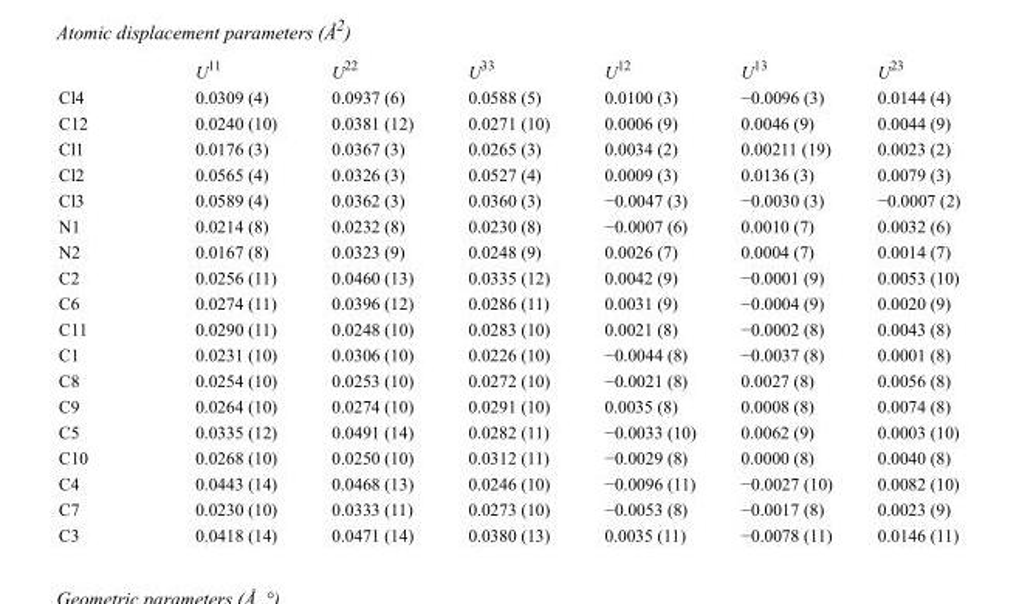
<table><thead><tr><td></td><td>U<sup>11</sup></td><td>U<sup>22</sup></td><td>U<sup>33</sup></td><td>U<sup>12</sup></td><td>U<sup>13</sup></td><td>U<sup>23</sup></td></tr></thead><tbody><tr><td>Cl4</td><td>0.0309 (4)</td><td>0.0937 (6)</td><td>0.0588 (5)</td><td>0.0100 (3)</td><td>−0.0096 (3)</td><td>0.0144 (4)</td></tr><tr><td>C12</td><td>0.0240 (10)</td><td>0.0381 (12)</td><td>0.0271 (10)</td><td>0.0006 (9)</td><td>0.0046 (9)</td><td>0.0044 (9)</td></tr><tr><td>Cl1</td><td>0.0176 (3)</td><td>0.0367 (3)</td><td>0.0265 (3)</td><td>0.0034 (2)</td><td>0.00211 (19)</td><td>0.0023 (2)</td></tr><tr><td>Cl2</td><td>0.0565 (4)</td><td>0.0326 (3)</td><td>0.0527 (4)</td><td>0.0009 (3)</td><td>0.0136 (3)</td><td>0.0079 (3)</td></tr><tr><td>Cl3</td><td>0.0589 (4)</td><td>0.0362 (3)</td><td>0.0360 (3)</td><td>−0.0047 (3)</td><td>−0.0030 (3)</td><td>−0.0007 (2)</td></tr><tr><td>N1</td><td>0.0214 (8)</td><td>0.0232 (8)</td><td>0.0230 (8)</td><td>−0.0007 (6)</td><td>0.0010 (7)</td><td>0.0032 (6)</td></tr><tr><td>N2</td><td>0.0167 (8)</td><td>0.0323 (9)</td><td>0.0248 (9)</td><td>0.0026 (7)</td><td>0.0004 (7)</td><td>0.0014 (7)</td></tr><tr><td>C2</td><td>0.0256 (11)</td><td>0.0460 (13)</td><td>0.0335 (12)</td><td>0.0042 (9)</td><td>−0.0001 (9)</td><td>0.0053 (10)</td></tr><tr><td>C6</td><td>0.0274 (11)</td><td>0.0396 (12)</td><td>0.0286 (11)</td><td>0.0031 (9)</td><td>−0.0004 (9)</td><td>0.0020 (9)</td></tr><tr><td>C11</td><td>0.0290 (11)</td><td>0.0248 (10)</td><td>0.0283 (10)</td><td>0.0021 (8)</td><td>−0.0002 (8)</td><td>0.0043 (8)</td></tr><tr><td>C1</td><td>0.0231 (10)</td><td>0.0306 (10)</td><td>0.0226 (10)</td><td>−0.0044 (8)</td><td>−0.0037 (8)</td><td>0.0001 (8)</td></tr><tr><td>C8</td><td>0.0254 (10)</td><td>0.0253 (10)</td><td>0.0272 (10)</td><td>−0.0021 (8)</td><td>0.0027 (8)</td><td>0.0056 (8)</td></tr><tr><td>C9</td><td>0.0264 (10)</td><td>0.0274 (10)</td><td>0.0291 (10)</td><td>0.0035 (8)</td><td>0.0008 (8)</td><td>0.0074 (8)</td></tr><tr><td>C5</td><td>0.0335 (12)</td><td>0.0491 (14)</td><td>0.0282 (11)</td><td>−0.0033 (10)</td><td>0.0062 (9)</td><td>0.0003 (10)</td></tr><tr><td>C10</td><td>0.0268 (10)</td><td>0.0250 (10)</td><td>0.0312 (11)</td><td>−0.0029 (8)</td><td>0.0000 (8)</td><td>0.0040 (8)</td></tr><tr><td>C4</td><td>0.0443 (14)</td><td>0.0468 (13)</td><td>0.0246 (10)</td><td>−0.0096 (11)</td><td>−0.0027 (10)</td><td>0.0082 (10)</td></tr><tr><td>C7</td><td>0.0230 (10)</td><td>0.0333 (11)</td><td>0.0273 (10)</td><td>−0.0053 (8)</td><td>−0.0017 (8)</td><td>0.0023 (9)</td></tr><tr><td>C3</td><td>0.0418 (14)</td><td>0.0471 (14)</td><td>0.0380 (13)</td><td>0.0035 (11)</td><td>−0.0078 (11)</td><td>0.0146 (11)</td></tr></tbody></table>